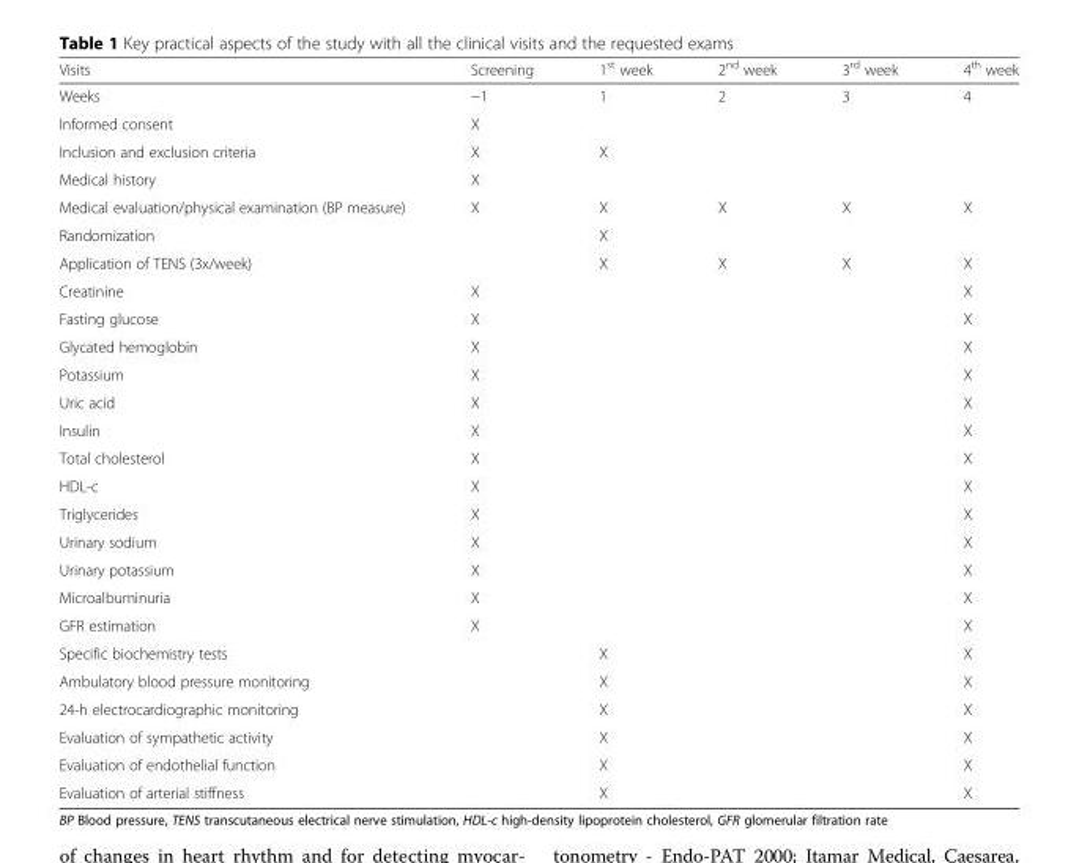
<table><thead><tr><td>Visits</td><td>Screening</td><td>1<sup>st</sup> week</td><td>2<sup>nd</sup> week</td><td>3<sup>rd</sup> week</td><td>4<sup>th</sup> week</td></tr></thead><tbody><tr><td>Weeks</td><td>−1</td><td>1</td><td>2</td><td>3</td><td>4</td></tr><tr><td>Informed consent</td><td>X</td><td></td><td></td><td></td><td></td></tr><tr><td>Inclusion and exclusion criteria</td><td>X</td><td>X</td><td></td><td></td><td></td></tr><tr><td>Medical history</td><td>X</td><td></td><td></td><td></td><td></td></tr><tr><td>Medical evaluation/physical examination (BP measure)</td><td>X</td><td>X</td><td>X</td><td>X</td><td>X</td></tr><tr><td>Randomization</td><td></td><td>X</td><td></td><td></td><td></td></tr><tr><td>Application of TENS (3x/week)</td><td></td><td>X</td><td>X</td><td>X</td><td>X</td></tr><tr><td>Creatinine</td><td>X</td><td></td><td></td><td></td><td>X</td></tr><tr><td>Fasting glucose</td><td>X</td><td></td><td></td><td></td><td>X</td></tr><tr><td>Glycated hemoglobin</td><td>X</td><td></td><td></td><td></td><td>X</td></tr><tr><td>Potassium</td><td>X</td><td></td><td></td><td></td><td>X</td></tr><tr><td>Uric acid</td><td>X</td><td></td><td></td><td></td><td>X</td></tr><tr><td>Insulin</td><td>X</td><td></td><td></td><td></td><td>X</td></tr><tr><td>Total cholesterol</td><td>X</td><td></td><td></td><td></td><td>X</td></tr><tr><td>HDL-c</td><td>X</td><td></td><td></td><td></td><td>X</td></tr><tr><td>Triglycerides</td><td>X</td><td></td><td></td><td></td><td>X</td></tr><tr><td>Urinary sodium</td><td>X</td><td></td><td></td><td></td><td>X</td></tr><tr><td>Urinary potassium</td><td>X</td><td></td><td></td><td></td><td>X</td></tr><tr><td>Microalbuminuria</td><td>X</td><td></td><td></td><td></td><td>X</td></tr><tr><td>GFR estimation</td><td>X</td><td></td><td></td><td></td><td>X</td></tr><tr><td>Specific biochemistry tests</td><td></td><td>X</td><td></td><td></td><td>X</td></tr><tr><td>Ambulatory blood pressure monitoring</td><td></td><td>X</td><td></td><td></td><td>X</td></tr><tr><td>24-h electrocardiographic monitoring</td><td></td><td>X</td><td></td><td></td><td>X</td></tr><tr><td>Evaluation of sympathetic activity</td><td></td><td>X</td><td></td><td></td><td>X</td></tr><tr><td>Evaluation of endothelial function</td><td></td><td>X</td><td></td><td></td><td>X</td></tr><tr><td>Evaluation of arterial stiffness</td><td></td><td>X</td><td></td><td></td><td>X</td></tr></tbody></table>